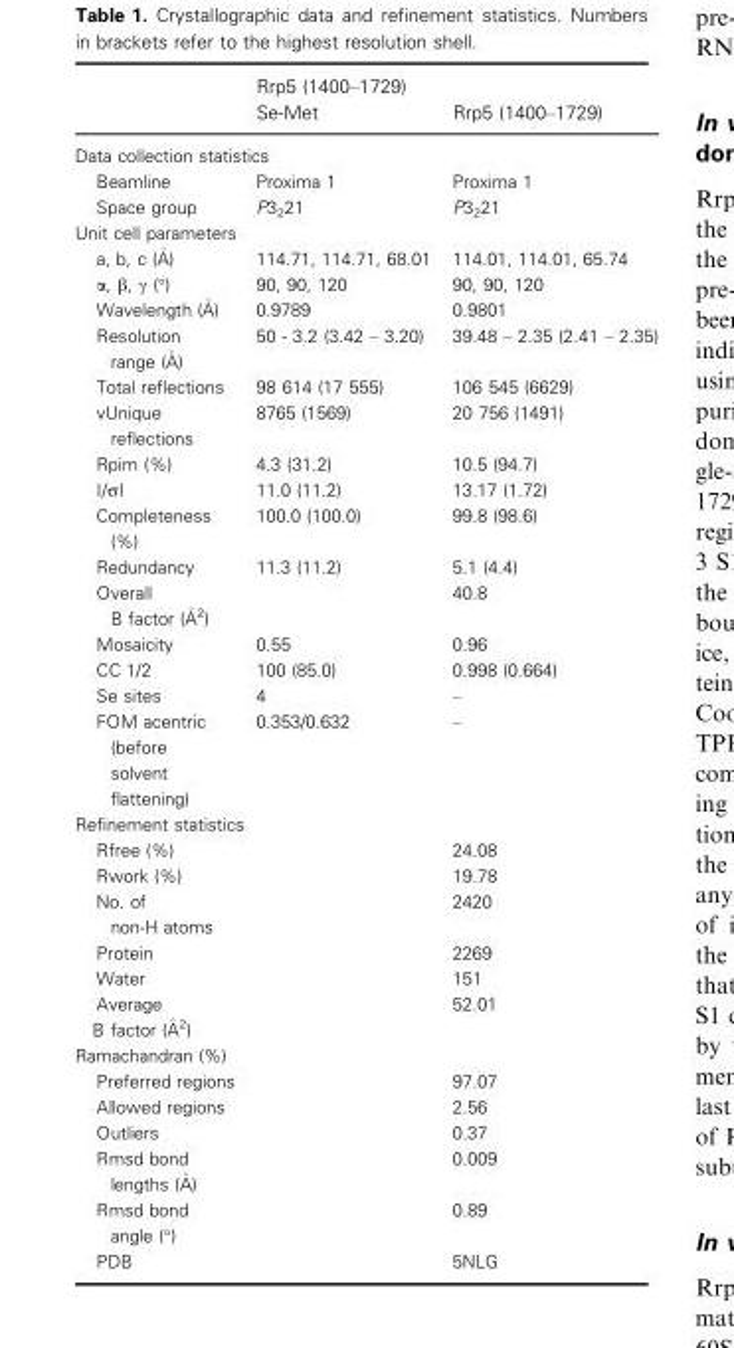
<table><thead><tr><td></td><td>Rrp5 (1400–1729) Se-Met</td><td>Rrp5 (1400–1729)</td></tr></thead><tbody><tr><td colspan="3">Data collection statistics</td></tr><tr><td>Beamline</td><td>Proxima 1</td><td>Proxima 1</td></tr><tr><td>Space group</td><td>P3<sub>2</sub>21</td><td>P3<sub>2</sub>21</td></tr><tr><td colspan="3">Unit cell parameters</td></tr><tr><td>a, b, c (�A)</td><td>114.71, 114.71, 68.01</td><td>114.01, 114.01, 65.74</td></tr><tr><td>α, β, γ (°)</td><td>90, 90, 120</td><td>90, 90, 120</td></tr><tr><td>Wavelength (�A)</td><td>0.9789</td><td>0.9801</td></tr><tr><td>Resolution range (�A)</td><td>50 - 3.2 (3.42 – 3.20)</td><td>39.48 – 2.35 (2.41 – 2.35)</td></tr><tr><td>Total reflections</td><td>98 614 (17 555)</td><td>106 545 (6629)</td></tr><tr><td>vUnique reflections</td><td>8765 (1569)</td><td>20 756 (1491)</td></tr><tr><td>Rpim (%)</td><td>4.3 (31.2)</td><td>10.5 (94.7)</td></tr><tr><td>I/σI</td><td>11.0 (11.2)</td><td>13.17 (1.72)</td></tr><tr><td>Completeness (%)</td><td>100.0 (100.0)</td><td>99.8 (98.6)</td></tr><tr><td>Redundancy</td><td>11.3 (11.2)</td><td>5.1 (4.4)</td></tr><tr><td>Overall B factor (�A2)</td><td></td><td>40.8</td></tr><tr><td>Mosaicity</td><td>0.55</td><td>0.96</td></tr><tr><td>CC 1/2</td><td>100 (85.0)</td><td>0.998 (0.664)</td></tr><tr><td>Se sites</td><td>4</td><td>–</td></tr><tr><td>FOM acentric (before solvent flattening)</td><td>0.353/0.632</td><td>–</td></tr><tr><td colspan="3">Refinement statistics</td></tr><tr><td>Rfree (%)</td><td></td><td>24.08</td></tr><tr><td>Rwork (%)</td><td></td><td>19.78</td></tr><tr><td>No. of non-H atoms</td><td></td><td>2420</td></tr><tr><td>Protein</td><td></td><td>2269</td></tr><tr><td>Water</td><td></td><td>151</td></tr><tr><td>Average B factor (�A2)</td><td></td><td>52.01</td></tr><tr><td colspan="3">Ramachandran (%)</td></tr><tr><td>Preferred regions</td><td></td><td>97.07</td></tr><tr><td>Allowed regions</td><td></td><td>2.56</td></tr><tr><td>Outliers</td><td></td><td>0.37</td></tr><tr><td>Rmsd bond lengths (�A)</td><td></td><td>0.009</td></tr><tr><td>Rmsd bond angle (°)</td><td></td><td>0.89</td></tr><tr><td>PDB</td><td></td><td>5NLG</td></tr></tbody></table>